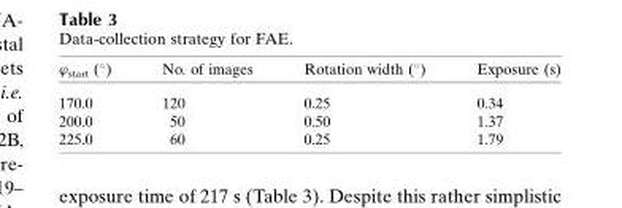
<table><thead><tr><td>’start (�)</td><td>No. of images</td><td>Rotation width (°)</td><td>Exposure (s)</td></tr></thead><tbody><tr><td>170.0</td><td>120</td><td>0.25</td><td>0.34</td></tr><tr><td>200.0</td><td>50</td><td>0.50</td><td>1.37</td></tr><tr><td>225.0</td><td>60</td><td>0.25</td><td>1.79</td></tr></tbody></table>